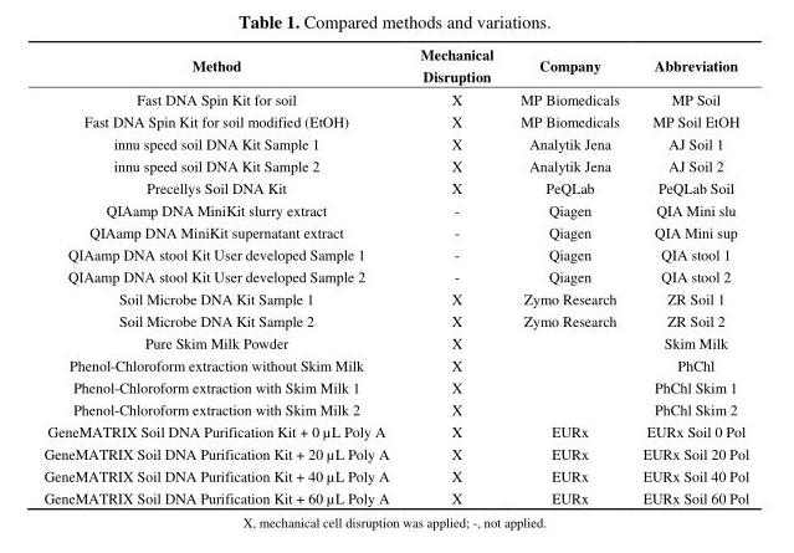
<table><thead><tr><td>Method</td><td>Mechanical Disruption</td><td>Company</td><td>Abbreviation</td></tr></thead><tbody><tr><td>Fast DNA Spin Kit for soil</td><td>X</td><td>MP Biomedicals</td><td>MP Soil</td></tr><tr><td>Fast DNA Spin Kit for soil modified (EtOH)</td><td>X</td><td>MP Biomedicals</td><td>MP Soil EtOH</td></tr><tr><td>innu speed soil DNA Kit Sample 1</td><td>X</td><td>Analytik Jena</td><td>AJ Soil 1</td></tr><tr><td>innu speed soil DNA Kit Sample 2</td><td>X</td><td>Analytik Jena</td><td>AJ Soil 2</td></tr><tr><td>Precellys Soil DNA Kit</td><td>X</td><td>PeQLab</td><td>PeQLab Soil</td></tr><tr><td>QIAamp DNA MiniKit slurry extract</td><td>-</td><td>Qiagen</td><td>QIA Mini slu</td></tr><tr><td>QIAamp DNA MiniKit supernatant extract</td><td>-</td><td>Qiagen</td><td>QIA Mini sup</td></tr><tr><td>QIAamp DNA stool Kit User developed Sample 1</td><td>-</td><td>Qiagen</td><td>QIA stool 1</td></tr><tr><td>QIAamp DNA stool Kit User developed Sample 2</td><td>-</td><td>Qiagen</td><td>QIA stool 2</td></tr><tr><td>Soil Microbe DNA Kit Sample 1</td><td>X</td><td>Zymo Research</td><td>ZR Soil 1</td></tr><tr><td>Soil Microbe DNA Kit Sample 2</td><td>X</td><td>Zymo Research</td><td>ZR Soil 2</td></tr><tr><td>Pure Skim Milk Powder</td><td>X</td><td></td><td>Skim Milk</td></tr><tr><td>Phenol-Chloroform extraction without Skim Milk</td><td>X</td><td></td><td>PhChl</td></tr><tr><td>Phenol-Chloroform extraction with Skim Milk 1</td><td>X</td><td></td><td>PhChl Skim 1</td></tr><tr><td>Phenol-Chloroform extraction with Skim Milk 2</td><td>X</td><td></td><td>PhChl Skim 2</td></tr><tr><td>GeneMATRIX Soil DNA Purification Kit + 0 µL Poly A</td><td>X</td><td>EURx</td><td>EURx Soil 0 Pol</td></tr><tr><td>GeneMATRIX Soil DNA Purification Kit + 20 µL Poly A</td><td>X</td><td>EURx</td><td>EURx Soil 20 Pol</td></tr><tr><td>GeneMATRIX Soil DNA Purification Kit + 40 µL Poly A</td><td>X</td><td>EURx</td><td>EURx Soil 40 Pol</td></tr><tr><td>GeneMATRIX Soil DNA Purification Kit + 60 µL Poly A</td><td>X</td><td>EURx</td><td>EURx Soil 60 Pol</td></tr></tbody></table>